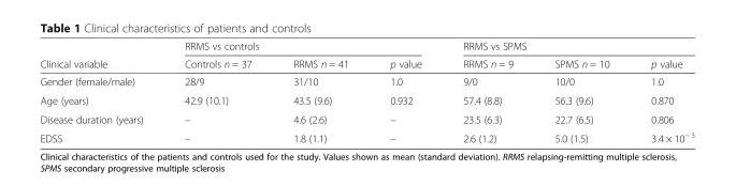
<table><thead><tr><td rowspan="2">Clinical variable</td><td colspan="3">RRMS vs controls</td><td colspan="3">RRMS vs SPMS</td></tr><tr><td>Controls n = 37</td><td>RRMS n = 41</td><td>p value</td><td>RRMS n = 9</td><td>SPMS n = 10</td><td>p value</td></tr></thead><tbody><tr><td>Gender (female/male)</td><td>28/9</td><td>31/10</td><td>1.0</td><td>9/0</td><td>10/0</td><td>1.0</td></tr><tr><td>Age (years)</td><td>42.9 (10.1)</td><td>43.5 (9.6)</td><td>0.932</td><td>57.4 (8.8)</td><td>56.3 (9.6)</td><td>0.870</td></tr><tr><td>Disease duration (years)</td><td>–</td><td>4.6 (2.6)</td><td>–</td><td>23.5 (6.3)</td><td>22.7 (6.5)</td><td>0.806</td></tr><tr><td>EDSS</td><td>–</td><td>1.8 (1.1)</td><td>–</td><td>2.6 (1.2)</td><td>5.0 (1.5)</td><td>3.4 × 10<sup>− 3</sup></td></tr></tbody></table>